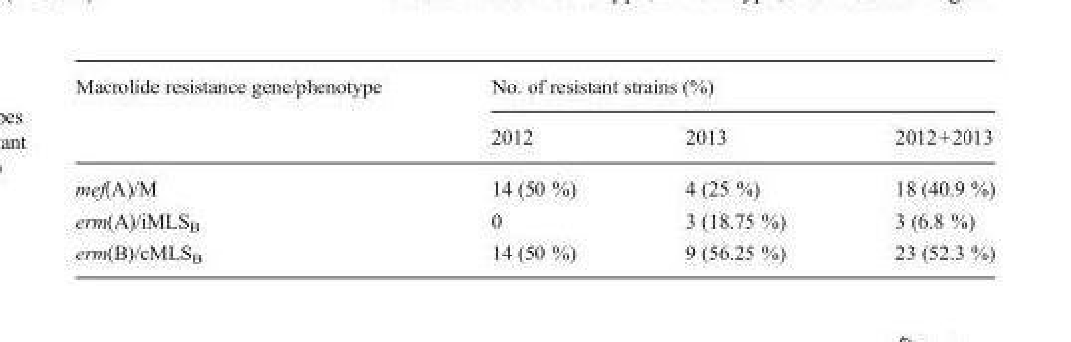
<table><thead><tr><td rowspan="2">Macrolide resistance gene/phenotype</td><td colspan="3">No. of resistant strains (%)</td></tr><tr><td>2012</td><td>2013</td><td>2012+2013</td></tr></thead><tbody><tr><td>mef(A)/M</td><td>14 (50 %)</td><td>4 (25 %)</td><td>18 (40.9 %)</td></tr><tr><td>erm(A)/iMLS<sub>B</sub></td><td>0</td><td>3 (18.75 %)</td><td>3 (6.8 %)</td></tr><tr><td>erm(B)/cMLS<sub>B</sub></td><td>14 (50 %)</td><td>9 (56.25 %)</td><td>23 (52.3 %)</td></tr></tbody></table>